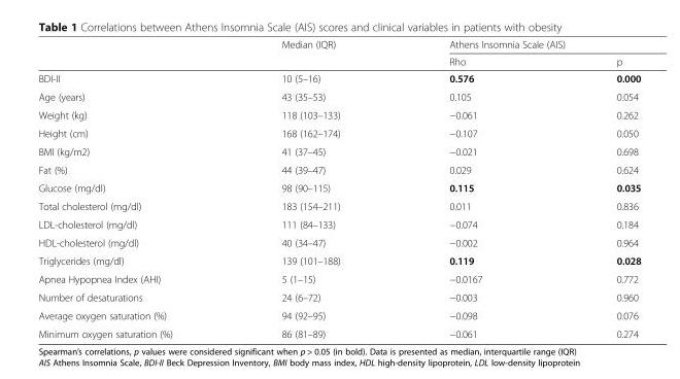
<table><thead><tr><td rowspan="2"></td><td rowspan="2">Median (IQR)</td><td colspan="2">Athens Insomnia Scale (AIS)</td></tr><tr><td>Rho</td><td>p</td></tr></thead><tbody><tr><td>BDI-II</td><td>10 (5–16)</td><td>0.576</td><td>0.000</td></tr><tr><td>Age (years)</td><td>43 (35–53)</td><td>0.105</td><td>0.054</td></tr><tr><td>Weight (kg)</td><td>118 (103–133)</td><td>−0.061</td><td>0.262</td></tr><tr><td>Height (cm)</td><td>168 (162–174)</td><td>−0.107</td><td>0.050</td></tr><tr><td>BMI (kg/m2)</td><td>41 (37–45)</td><td>−0.021</td><td>0.698</td></tr><tr><td>Fat (%)</td><td>44 (39–47)</td><td>0.029</td><td>0.624</td></tr><tr><td>Glucose (mg/dl)</td><td>98 (90–115)</td><td>0.115</td><td>0.035</td></tr><tr><td>Total cholesterol (mg/dl)</td><td>183 (154–211)</td><td>0.011</td><td>0.836</td></tr><tr><td>LDL-cholesterol (mg/dl)</td><td>111 (84–133)</td><td>−0.074</td><td>0.184</td></tr><tr><td>HDL-cholesterol (mg/dl)</td><td>40 (34–47)</td><td>−0.002</td><td>0.964</td></tr><tr><td>Triglycerides (mg/dl)</td><td>139 (101–188)</td><td>0.119</td><td>0.028</td></tr><tr><td>Apnea Hypopnea Index (AHI)</td><td>5 (1–15)</td><td>−0.0167</td><td>0.772</td></tr><tr><td>Number of desaturations</td><td>24 (6–72)</td><td>−0.003</td><td>0.960</td></tr><tr><td>Average oxygen saturation (%)</td><td>94 (92–95)</td><td>−0.098</td><td>0.076</td></tr><tr><td>Minimum oxygen saturation (%)</td><td>86 (81–89)</td><td>−0.061</td><td>0.274</td></tr></tbody></table>